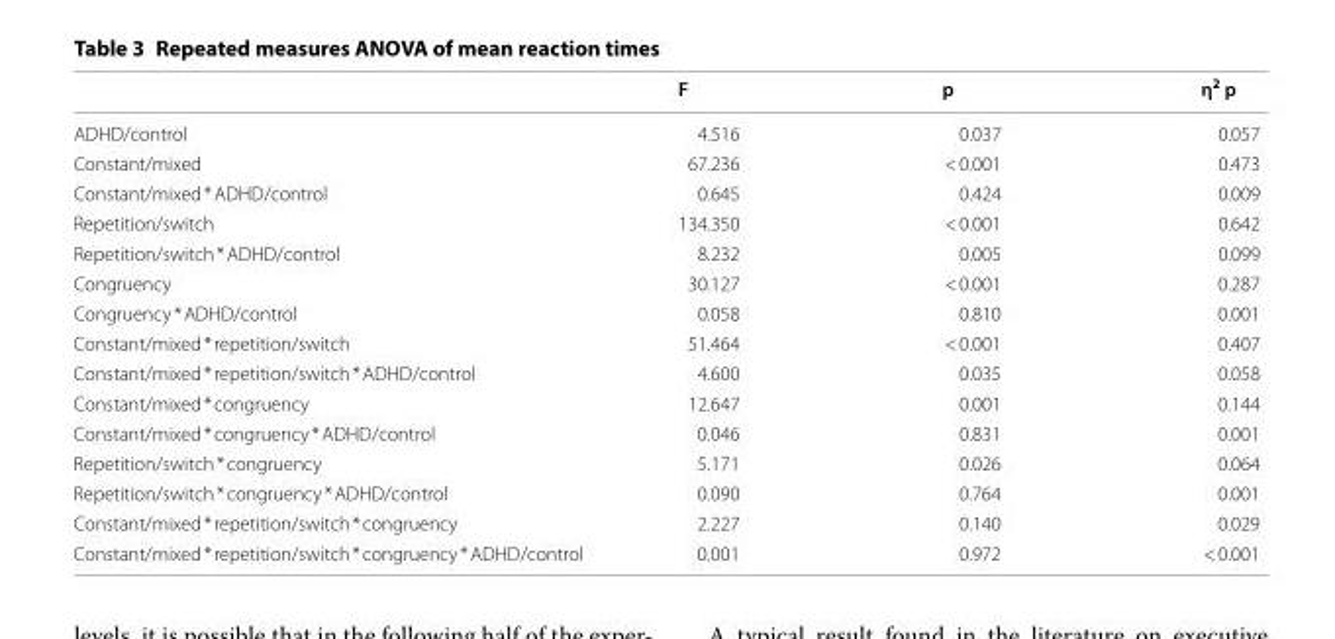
<table><thead><tr><td></td><td>F</td><td>p</td><td>η<sup>2</sup> p</td></tr></thead><tbody><tr><td>ADHD/control</td><td>4.516</td><td>0.037</td><td>0.057</td></tr><tr><td>Constant/mixed</td><td>67.236</td><td>&lt; 0.001</td><td>0.473</td></tr><tr><td>Constant/mixed * ADHD/control</td><td>0.645</td><td>0.424</td><td>0.009</td></tr><tr><td>Repetition/switch</td><td>134.350</td><td>&lt; 0.001</td><td>0.642</td></tr><tr><td>Repetition/switch * ADHD/control</td><td>8.232</td><td>0.005</td><td>0.099</td></tr><tr><td>Congruency</td><td>30.127</td><td>&lt; 0.001</td><td>0.287</td></tr><tr><td>Congruency * ADHD/control</td><td>0.058</td><td>0.810</td><td>0.001</td></tr><tr><td>Constant/mixed * repetition/switch</td><td>51.464</td><td>&lt; 0.001</td><td>0.407</td></tr><tr><td>Constant/mixed * repetition/switch * ADHD/control</td><td>4.600</td><td>0.035</td><td>0.058</td></tr><tr><td>Constant/mixed * congruency</td><td>12.647</td><td>0.001</td><td>0.144</td></tr><tr><td>Constant/mixed * congruency * ADHD/control</td><td>0.046</td><td>0.831</td><td>0.001</td></tr><tr><td>Repetition/switch * congruency</td><td>5.171</td><td>0.026</td><td>0.064</td></tr><tr><td>Repetition/switch * congruency * ADHD/control</td><td>0.090</td><td>0.764</td><td>0.001</td></tr><tr><td>Constant/mixed * repetition/switch * congruency</td><td>2.227</td><td>0.140</td><td>0.029</td></tr><tr><td>Constant/mixed * repetition/switch * congruency * ADHD/control</td><td>0.001</td><td>0.972</td><td>&lt; 0.001</td></tr></tbody></table>